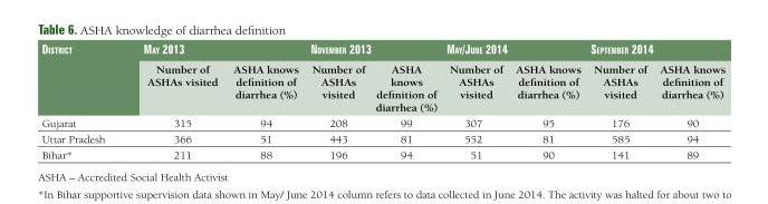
<table><thead><tr><td rowspan="2">district</td><td colspan="2">may 2013</td><td colspan="2">novemBer 2013</td><td colspan="2">may/june 2014</td><td colspan="2">sePtemBer 2014</td></tr><tr><td>Number of ASHAs visited</td><td>ASHA knows definition of diarrhea (%)</td><td>Number of ASHAs visited</td><td>ASHA knows definition of diarrhea (%)</td><td>Number of ASHAs visited</td><td>ASHA knows definition of diarrhea (%)</td><td>Number of ASHAs visited</td><td>ASHA knows definition of diarrhea (%)</td></tr></thead><tbody><tr><td>Gujarat</td><td>315</td><td>94</td><td>208</td><td>99</td><td>307</td><td>95</td><td>176</td><td>90</td></tr><tr><td>Uttar Pradesh</td><td>366</td><td>51</td><td>443</td><td>81</td><td>552</td><td>81</td><td>585</td><td>94</td></tr><tr><td>Bihar*</td><td>211</td><td>88</td><td>196</td><td>94</td><td>51</td><td>90</td><td>141</td><td>89</td></tr></tbody></table>